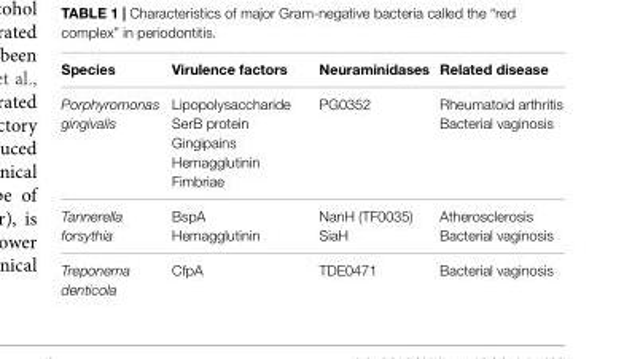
<table><thead><tr><td>Species</td><td>Virulence factors</td><td>Neuraminidases</td><td>Related disease</td></tr></thead><tbody><tr><td>Porphyromonas gingivalis</td><td>Lipopolysaccharide SerB protein Gingipains Hemagglutinin Fimbriae</td><td>PG0352</td><td>Rheumatoid arthritis Bacterial vaginosis</td></tr><tr><td>Tannerella forsythia</td><td>BspA Hemagglutinin</td><td>NanH (TF0035) SiaH</td><td>Atherosclerosis Bacterial vaginosis</td></tr><tr><td>Treponema denticola</td><td>CfpA</td><td>TDE0471</td><td>Bacterial vaginosis</td></tr></tbody></table>